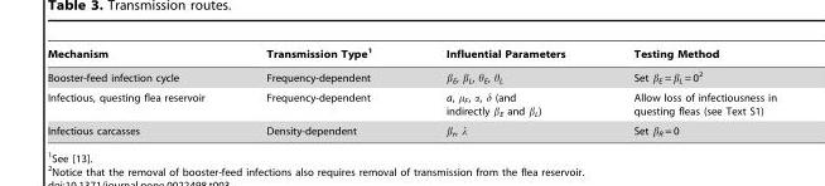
<table><thead><tr><td>Mechanism</td><td>Transmission Type<sup>1</sup></td><td>Influential Parameters</td><td>Testing Method</td></tr></thead><tbody><tr><td>Booster-feed infection cycle</td><td>Frequency-dependent</td><td>β<sub>E</sub>, β<sub>L</sub>, θ<sub>E</sub>, θ<sub>L</sub></td><td>Set β<sub>E</sub> = β<sub>L</sub> = 0<sup>2</sup></td></tr><tr><td>Infectious, questing flea reservoir</td><td>Frequency-dependent</td><td>a, μ<sub>F</sub>, α, δ (and indirectly β<sub>E</sub> and β<sub>L</sub>)</td><td>Allow loss of infectiousness in questing fleas (see Text S1)</td></tr><tr><td>Infectious carcasses</td><td>Density-dependent</td><td>β<sub>r</sub>, λ</td><td>Set β<sub>R</sub> = 0</td></tr></tbody></table>